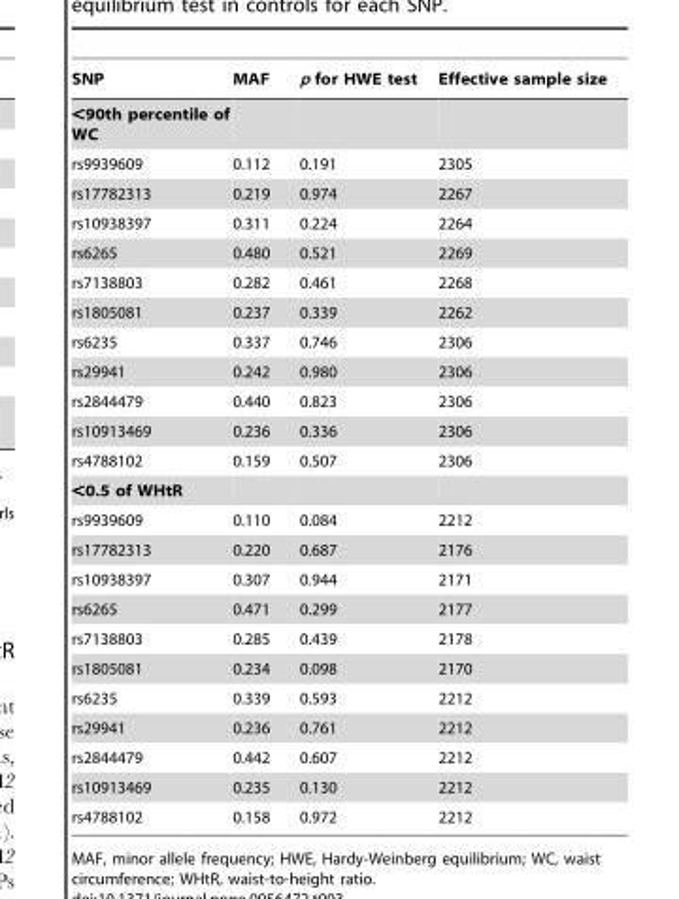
<table><thead><tr><td>SNP</td><td>MAF</td><td>p for HWE test</td><td>Effective sample size</td></tr></thead><tbody><tr><td colspan="4">&lt;90th percentile of WC</td></tr><tr><td>rs9939609</td><td>0.112</td><td>0.191</td><td>2305</td></tr><tr><td>rs17782313</td><td>0.219</td><td>0.974</td><td>2267</td></tr><tr><td>rs10938397</td><td>0.311</td><td>0.224</td><td>2264</td></tr><tr><td>rs6265</td><td>0.480</td><td>0.521</td><td>2269</td></tr><tr><td>rs7138803</td><td>0.282</td><td>0.461</td><td>2268</td></tr><tr><td>rs1805081</td><td>0.237</td><td>0.339</td><td>2262</td></tr><tr><td>rs6235</td><td>0.337</td><td>0.746</td><td>2306</td></tr><tr><td>rs29941</td><td>0.242</td><td>0.980</td><td>2306</td></tr><tr><td>rs2844479</td><td>0.440</td><td>0.823</td><td>2306</td></tr><tr><td>rs10913469</td><td>0.236</td><td>0.336</td><td>2306</td></tr><tr><td>rs4788102</td><td>0.159</td><td>0.507</td><td>2306</td></tr><tr><td colspan="4">&lt;0.5 of WHtR</td></tr><tr><td>rs9939609</td><td>0.110</td><td>0.084</td><td>2212</td></tr><tr><td>rs17782313</td><td>0.220</td><td>0.687</td><td>2176</td></tr><tr><td>rs10938397</td><td>0.307</td><td>0.944</td><td>2171</td></tr><tr><td>rs6265</td><td>0.471</td><td>0.299</td><td>2177</td></tr><tr><td>rs7138803</td><td>0.285</td><td>0.439</td><td>2178</td></tr><tr><td>rs1805081</td><td>0.234</td><td>0.098</td><td>2170</td></tr><tr><td>rs6235</td><td>0.339</td><td>0.593</td><td>2212</td></tr><tr><td>rs29941</td><td>0.236</td><td>0.761</td><td>2212</td></tr><tr><td>rs2844479</td><td>0.442</td><td>0.607</td><td>2212</td></tr><tr><td>rs10913469</td><td>0.235</td><td>0.130</td><td>2212</td></tr><tr><td>rs4788102</td><td>0.158</td><td>0.972</td><td>2212</td></tr></tbody></table>